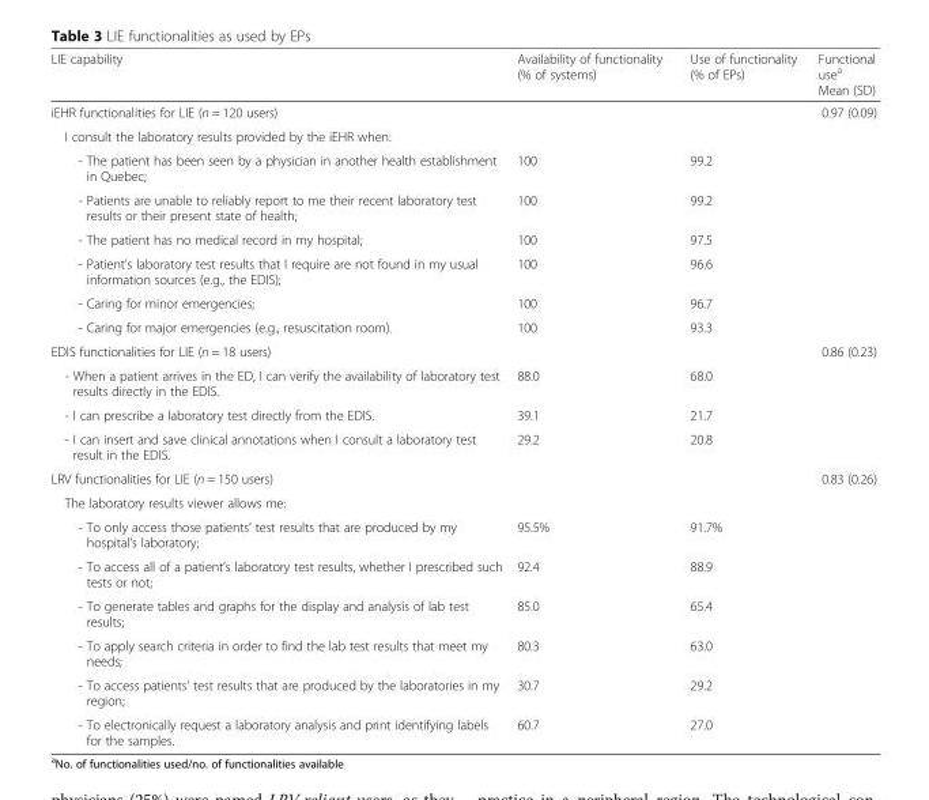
<table><thead><tr><td>LIE capability</td><td>Availability of functionality (% of systems)</td><td>Use of functionality (% of EPs)</td><td>Functional use<sup>a</sup> Mean (SD)</td></tr></thead><tbody><tr><td colspan="3">iEHR functionalities for LIE (n = 120 users)</td><td rowspan="8">0.97 (0.09)</td></tr><tr><td colspan="3">I consult the laboratory results provided by the iEHR when:</td></tr><tr><td>- The patient has been seen by a physician in another health establishment in Quebec;</td><td>100</td><td>99.2</td></tr><tr><td>- Patients are unable to reliably report to me their recent laboratory test results or their present state of health;</td><td>100</td><td>99.2</td></tr><tr><td>- The patient has no medical record in my hospital;</td><td>100</td><td>97.5</td></tr><tr><td>- Patient’s laboratory test results that I require are not found in my usual information sources (e.g., the EDIS);</td><td>100</td><td>96.6</td></tr><tr><td>- Caring for minor emergencies;</td><td>100</td><td>96.7</td></tr><tr><td>- Caring for major emergencies (e.g., resuscitation room).</td><td>100</td><td>93.3</td></tr><tr><td colspan="3">EDIS functionalities for LIE (n = 18 users)</td><td rowspan="4">0.86 (0.23)</td></tr><tr><td>- When a patient arrives in the ED, I can verify the availability of laboratory test results directly in the EDIS.</td><td>88.0</td><td>68.0</td></tr><tr><td>- I can prescribe a laboratory test directly from the EDIS.</td><td>39.1</td><td>21.7</td></tr><tr><td>- I can insert and save clinical annotations when I consult a laboratory test result in the EDIS.</td><td>29.2</td><td>20.8</td></tr><tr><td colspan="3">LRV functionalities for LIE (n = 150 users)</td><td rowspan="8">0.83 (0.26)</td></tr><tr><td colspan="3">The laboratory results viewer allows me:</td></tr><tr><td>- To only access those patients’ test results that are produced by my hospital’s laboratory;</td><td>95.5%</td><td>91.7%</td></tr><tr><td>- To access all of a patient’s laboratory test results, whether I prescribed such tests or not;</td><td>92.4</td><td>88.9</td></tr><tr><td>- To generate tables and graphs for the display and analysis of lab test results;</td><td>85.0</td><td>65.4</td></tr><tr><td>- To apply search criteria in order to find the lab test results that meet my needs;</td><td>80.3</td><td>63.0</td></tr><tr><td>- To access patients’ test results that are produced by the laboratories in my region;</td><td>30.7</td><td>29.2</td></tr><tr><td>- To electronically request a laboratory analysis and print identifying labels for the samples.</td><td>60.7</td><td>27.0</td></tr></tbody></table>